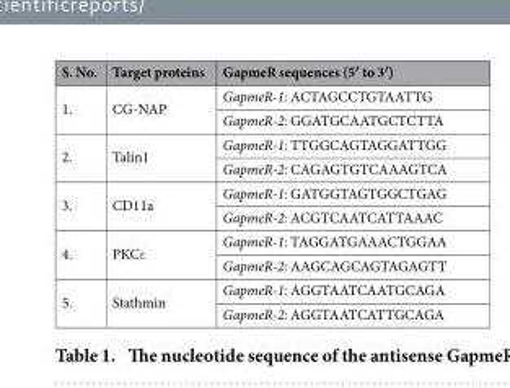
<table><thead><tr><td>S. No.</td><td>Target proteins</td><td>GapmeR sequences (5′ to 3′)</td></tr></thead><tbody><tr><td rowspan="2">1.</td><td rowspan="2">CG-NAP</td><td>GapmeR-1: ACTAGCCTGTAATTG</td></tr><tr><td>GapmeR-2: GGATGCAATGCTCTTA</td></tr><tr><td rowspan="2">2.</td><td rowspan="2">Talin1</td><td>GapmeR-1: TTGGCAGTAGGATTGG</td></tr><tr><td>GapmeR-2: CAGAGTGTCAAAGTCA</td></tr><tr><td rowspan="2">3.</td><td rowspan="2">CD11a</td><td>GapmeR-1: GATGGTAGTGGCTGAG</td></tr><tr><td>GapmeR-2: ACGTCAATCATTAAAC</td></tr><tr><td rowspan="2">4.</td><td rowspan="2">PKCε</td><td>GapmeR-1: TAGGATGAAACTGGAA</td></tr><tr><td>GapmeR-2: AAGCAGCAGTAGAGTT</td></tr><tr><td rowspan="2">5.</td><td rowspan="2">Stathmin</td><td>GapmeR-1: AGGTAATCAATGCAGA</td></tr><tr><td>GapmeR-2: AGGTAATCATTGCAGA</td></tr></tbody></table>